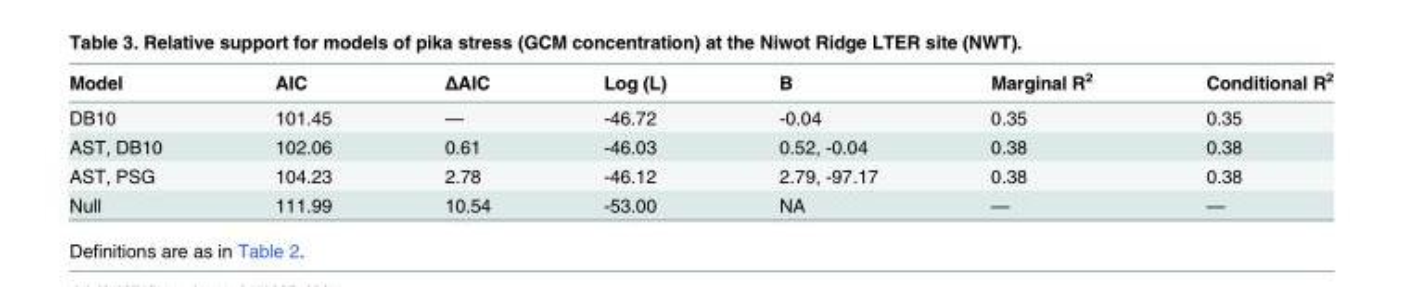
<table><thead><tr><td>Model</td><td>AIC</td><td>ΔAIC</td><td>Log (L)</td><td>B</td><td>Marginal R<sup>2</sup></td><td>Conditional R<sup>2</sup></td></tr></thead><tbody><tr><td>DB10</td><td>101.45</td><td>—</td><td>-46.72</td><td>-0.04</td><td>0.35</td><td>0.35</td></tr><tr><td>AST, DB10</td><td>102.06</td><td>0.61</td><td>-46.03</td><td>0.52, -0.04</td><td>0.38</td><td>0.38</td></tr><tr><td>AST, PSG</td><td>104.23</td><td>2.78</td><td>-46.12</td><td>2.79, -97.17</td><td>0.38</td><td>0.38</td></tr><tr><td>Null</td><td>111.99</td><td>10.54</td><td>-53.00</td><td>NA</td><td>—</td><td>—</td></tr></tbody></table>